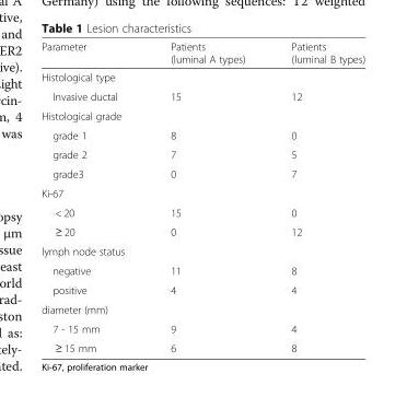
<table><thead><tr><td>Parameter</td><td>Patients (luminal A types)</td><td>Patients (luminal B types)</td></tr></thead><tbody><tr><td colspan="3">Histological type</td></tr><tr><td>Invasive ductal</td><td>15</td><td>12</td></tr><tr><td colspan="3">Histological grade</td></tr><tr><td>grade 1</td><td>8</td><td>0</td></tr><tr><td>grade 2</td><td>7</td><td>5</td></tr><tr><td>grade3</td><td>0</td><td>7</td></tr><tr><td colspan="3">Ki-67</td></tr><tr><td>&lt; 20</td><td>15</td><td>0</td></tr><tr><td>≥ 20</td><td>0</td><td>12</td></tr><tr><td colspan="3">lymph node status</td></tr><tr><td>negative</td><td>11</td><td>8</td></tr><tr><td>positive</td><td>4</td><td>4</td></tr><tr><td colspan="3">diameter (mm)</td></tr><tr><td>7 - 15 mm</td><td>9</td><td>4</td></tr><tr><td>≥ 15 mm</td><td>6</td><td>8</td></tr></tbody></table>